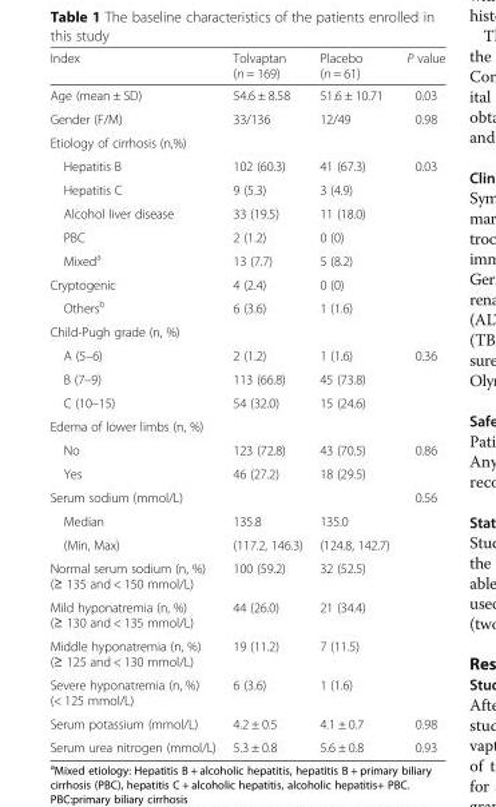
<table><thead><tr><td>Index</td><td>Tolvaptan (n = 169)</td><td>Placebo (n = 61)</td><td>P value</td></tr></thead><tbody><tr><td>Age (mean ± SD)</td><td>54.6 ± 8.58</td><td>51.6 ± 10.71</td><td>0.03</td></tr><tr><td>Gender (F/M)</td><td>33/136</td><td>12/49</td><td>0.98</td></tr><tr><td colspan="4">Etiology of cirrhosis (n,%)</td></tr><tr><td>Hepatitis B</td><td>102 (60.3)</td><td>41 (67.3)</td><td>0.03</td></tr><tr><td>Hepatitis C</td><td>9 (5.3)</td><td>3 (4.9)</td><td></td></tr><tr><td>Alcohol liver disease</td><td>33 (19.5)</td><td>11 (18.0)</td><td></td></tr><tr><td>PBC</td><td>2 (1.2)</td><td>0 (0)</td><td></td></tr><tr><td>Mixed<sup>a</sup></td><td>13 (7.7)</td><td>5 (8.2)</td><td></td></tr><tr><td>Cryptogenic</td><td>4 (2.4)</td><td>0 (0)</td><td></td></tr><tr><td>Others<sup>b</sup></td><td>6 (3.6)</td><td>1 (1.6)</td><td></td></tr><tr><td colspan="4">Child-Pugh grade (n, %)</td></tr><tr><td>A (5–6)</td><td>2 (1.2)</td><td>1 (1.6)</td><td>0.36</td></tr><tr><td>B (7–9)</td><td>113 (66.8)</td><td>45 (73.8)</td><td></td></tr><tr><td>C (10–15)</td><td>54 (32.0)</td><td>15 (24.6)</td><td></td></tr><tr><td colspan="4">Edema of lower limbs (n, %)</td></tr><tr><td>No</td><td>123 (72.8)</td><td>43 (70.5)</td><td>0.86</td></tr><tr><td>Yes</td><td>46 (27.2)</td><td>18 (29.5)</td><td></td></tr><tr><td>Serum sodium (mmol/L)</td><td></td><td></td><td>0.56</td></tr><tr><td>Median</td><td>135.8</td><td>135.0</td><td></td></tr><tr><td>(Min, Max)</td><td>(117.2, 146.3)</td><td>(124.8, 142.7)</td><td></td></tr><tr><td>Normal serum sodium (n, %) (≥ 135 and &lt; 150 mmol/L)</td><td>100 (59.2)</td><td>32 (52.5)</td><td></td></tr><tr><td>Mild hyponatremia (n, %) (≥ 130 and &lt; 135 mmol/L)</td><td>44 (26.0)</td><td>21 (34.4)</td><td></td></tr><tr><td>Middle hyponatremia (n, %) (≥ 125 and &lt; 130 mmol/L)</td><td>19 (11.2)</td><td>7 (11.5)</td><td></td></tr><tr><td>Severe hyponatremia (n, %) (&lt; 125 mmol/L)</td><td>6 (3.6)</td><td>1 (1.6)</td><td></td></tr><tr><td>Serum potassium (mmol/L)</td><td>4.2 ± 0.5</td><td>4.1 ± 0.7</td><td>0.98</td></tr><tr><td>Serum urea nitrogen (mmol/L)</td><td>5.3 ± 0.8</td><td>5.6 ± 0.8</td><td>0.93</td></tr></tbody></table>